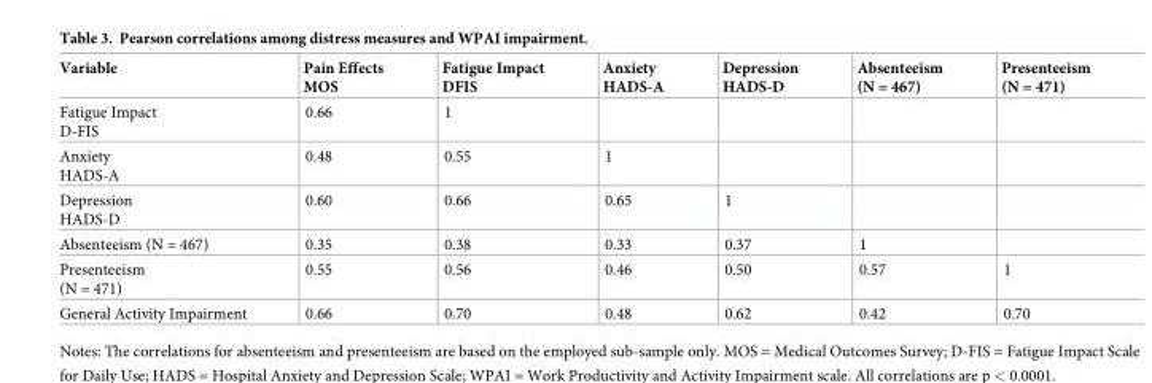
<table><thead><tr><td>Variable</td><td>Pain Effects MOS</td><td>Fatigue Impact DFIS</td><td>Anxiety HADS-A</td><td>Depression HADS-D</td><td>Absenteeism (N = 467)</td><td>Presenteeism (N = 471)</td></tr></thead><tbody><tr><td>Fatigue Impact D-FIS</td><td>0.66</td><td>1</td><td></td><td></td><td></td><td></td></tr><tr><td>Anxiety HADS-A</td><td>0.48</td><td>0.55</td><td>1</td><td></td><td></td><td></td></tr><tr><td>Depression HADS-D</td><td>0.60</td><td>0.66</td><td>0.65</td><td>1</td><td></td><td></td></tr><tr><td>Absenteeism (N = 467)</td><td>0.35</td><td>0.38</td><td>0.33</td><td>0.37</td><td>1</td><td></td></tr><tr><td>Presenteeism (N = 471)</td><td>0.55</td><td>0.56</td><td>0.46</td><td>0.50</td><td>0.57</td><td>1</td></tr><tr><td>General Activity Impairment</td><td>0.66</td><td>0.70</td><td>0.48</td><td>0.62</td><td>0.42</td><td>0.70</td></tr></tbody></table>